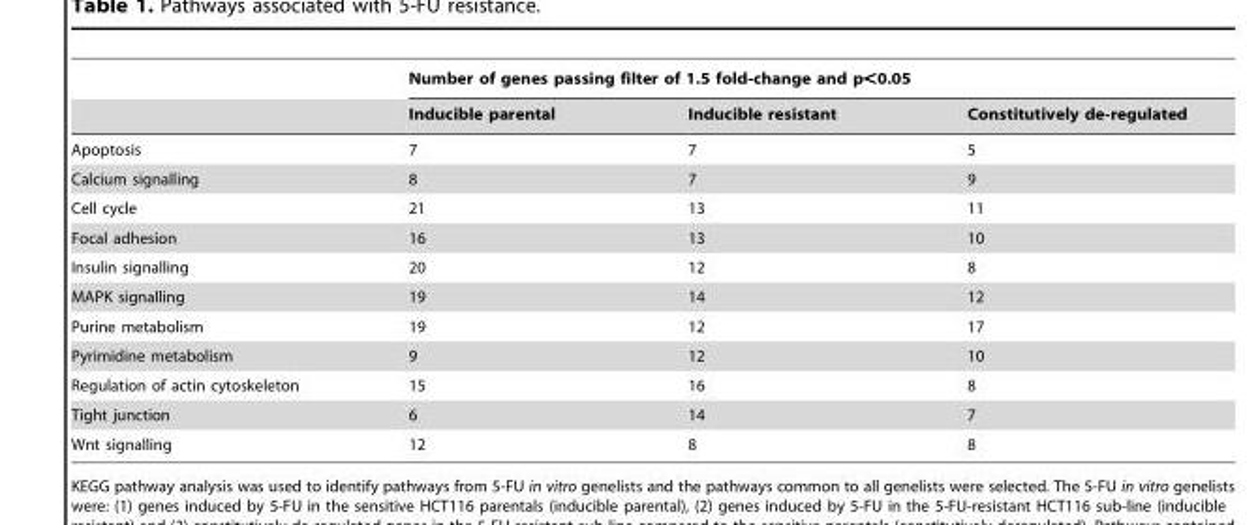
<table><thead><tr><td rowspan="2"></td><td colspan="3">Number of genes passing filter of 1.5 fold-change and p&lt;0.05</td></tr><tr><td>Inducible parental</td><td>Inducible resistant</td><td>Constitutively de-regulated</td></tr></thead><tbody><tr><td>Apoptosis</td><td>7</td><td>7</td><td>5</td></tr><tr><td>Calcium signalling</td><td>8</td><td>7</td><td>9</td></tr><tr><td>Cell cycle</td><td>21</td><td>13</td><td>11</td></tr><tr><td>Focal adhesion</td><td>16</td><td>13</td><td>10</td></tr><tr><td>Insulin signalling</td><td>20</td><td>12</td><td>8</td></tr><tr><td>MAPK signalling</td><td>19</td><td>14</td><td>12</td></tr><tr><td>Purine metabolism</td><td>19</td><td>12</td><td>17</td></tr><tr><td>Pyrimidine metabolism</td><td>9</td><td>12</td><td>10</td></tr><tr><td>Regulation of actin cytoskeleton</td><td>15</td><td>16</td><td>8</td></tr><tr><td>Tight junction</td><td>6</td><td>14</td><td>7</td></tr><tr><td>Wnt signalling</td><td>12</td><td>8</td><td>8</td></tr></tbody></table>